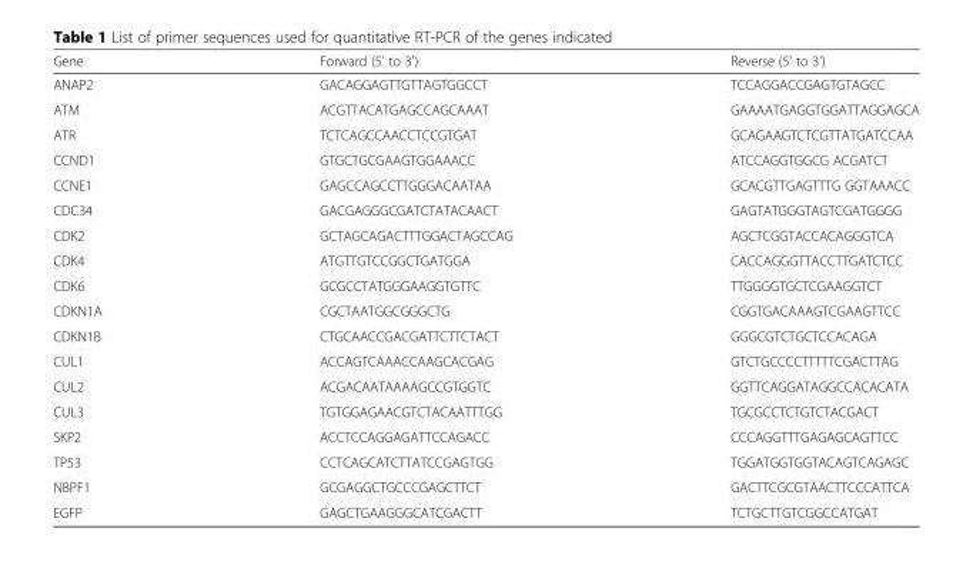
<table><thead><tr><td>Gene</td><td>Forward (5&#x27; to 3&#x27;)</td><td>Reverse (5&#x27; to 3&#x27;)</td></tr></thead><tbody><tr><td>ANAP2</td><td>GACAGGAGTTGTTAGTGGCCT</td><td>TCCAGGACCGAGTGTAGCC</td></tr><tr><td>ATM</td><td>ACGTTACATGAGCCAGCAAAT</td><td>GAAAATGAGGTGGATTAGGAGCA</td></tr><tr><td>ATR</td><td>TCTCAGCCAACCTCCGTGAT</td><td>GCAGAAGTCTCGTTATGATCCAA</td></tr><tr><td>CCND1</td><td>GTGCTGCGAAGTGGAAACC</td><td>ATCCAGGTGGCG ACGATCT</td></tr><tr><td>CCNE1</td><td>GAGCCAGCCTTGGGACAATAA</td><td>GCACGTTGAGTTTG GGTAAACC</td></tr><tr><td>CDC34</td><td>GACGAGGGCGATCTATACAACT</td><td>GAGTATGGGTAGTCGATGGGG</td></tr><tr><td>CDK2</td><td>GCTAGCAGACTTTGGACTAGCCAG</td><td>AGCTCGGTACCACAGGGTCA</td></tr><tr><td>CDK4</td><td>ATGTTGTCCGGCTGATGGA</td><td>CACCAGGGTTACCTTGATCTCC</td></tr><tr><td>CDK6</td><td>GCGCCTATGGGAAGGTGTTC</td><td>TTGGGGTGCTCGAAGGTCT</td></tr><tr><td>CDKN1A</td><td>CGCTAATGGCGGGCTG</td><td>CGGTGACAAAGTCGAAGTTCC</td></tr><tr><td>CDKN1B</td><td>CTGCAACCGACGATTCTTCTACT</td><td>GGGCGTCTGCTCCACAGA</td></tr><tr><td>CUL1</td><td>ACCAGTCAAACCAAGCACGAG</td><td>GTCTGCCCCTTTTTCGACTTAG</td></tr><tr><td>CUL2</td><td>ACGACAATAAAAGCCGTGGTC</td><td>GGTTCAGGATAGGCCACACATA</td></tr><tr><td>CUL3</td><td>TGTGGAGAACGTCTACAATTTGG</td><td>TGCGCCTCTGTCTACGACT</td></tr><tr><td>SKP2</td><td>ACCTCCAGGAGATTCCAGACC</td><td>CCCAGGTTTGAGAGCAGTTCC</td></tr><tr><td>TP53</td><td>CCTCAGCATCTTATCCGAGTGG</td><td>TGGATGGTGGTACAGTCAGAGC</td></tr><tr><td>NBPF1</td><td>GCGAGGCTGCCCGAGCTTCT</td><td>GACTTCGCGTAACTTCCCATTCA</td></tr><tr><td>EGFP</td><td>GAGCTGAAGGGCATCGACTT</td><td>TCTGCTTGTCGGCCATGAT</td></tr></tbody></table>